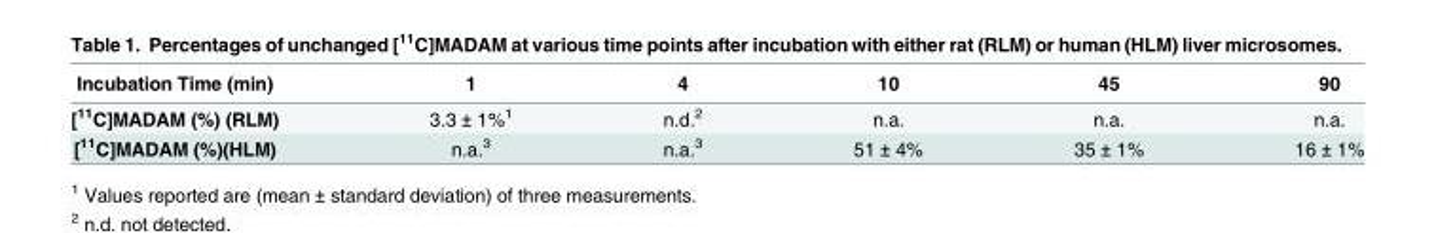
<table><thead><tr><td>Incubation Time (min)</td><td>1</td><td>4</td><td>10</td><td>45</td><td>90</td></tr></thead><tbody><tr><td>[<sup>11</sup>C]MADAM (%) (RLM)</td><td>3.3 ± 1%<sup>1</sup></td><td>n.d.<sup>2</sup></td><td>n.a.</td><td>n.a.</td><td>n.a.</td></tr><tr><td>[<sup>11</sup>C]MADAM (%)(HLM)</td><td>n.a.<sup>3</sup></td><td>n.a.<sup>3</sup></td><td>51 ± 4%</td><td>35 ± 1%</td><td>16 ± 1%</td></tr></tbody></table>